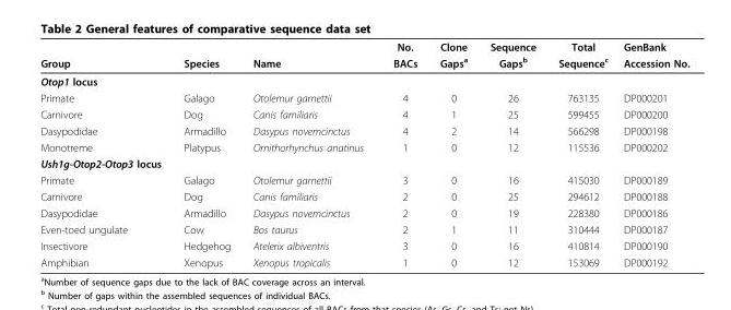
<table><thead><tr><td rowspan="2">Group</td><td rowspan="2">Species</td><td rowspan="2">Name</td><td rowspan="2">No. BACs</td><td rowspan="2">Clone Gaps<sup>a</sup></td><td rowspan="2">Sequence Gaps<sup>b</sup></td><td rowspan="2">Total Sequence<sup>c</sup></td><td rowspan="2">GenBank Accession No.</td></tr><tr></tr></thead><tbody><tr><td colspan="8">Otop1 locus</td></tr><tr><td>Primate</td><td>Galago</td><td>Otolemur garnettii</td><td>4</td><td>0</td><td>26</td><td>763135</td><td>DP000201</td></tr><tr><td>Carnivore</td><td>Dog</td><td>Canis familiaris</td><td>4</td><td>1</td><td>25</td><td>599455</td><td>DP000200</td></tr><tr><td>Dasypodidae</td><td>Armadillo</td><td>Dasypus novemcinctus</td><td>4</td><td>2</td><td>14</td><td>566298</td><td>DP000198</td></tr><tr><td>Monotreme</td><td>Platypus</td><td>Ornithorhynchus anatinus</td><td>1</td><td>0</td><td>12</td><td>115536</td><td>DP000202</td></tr><tr><td colspan="8">Ush1g-Otop2-Otop3 locus</td></tr><tr><td>Primate</td><td>Galago</td><td>Otolemur garnettii</td><td>3</td><td>0</td><td>16</td><td>415030</td><td>DP000189</td></tr><tr><td>Carnivore</td><td>Dog</td><td>Canis familiaris</td><td>2</td><td>0</td><td>25</td><td>294612</td><td>DP000188</td></tr><tr><td>Dasypodidae</td><td>Armadillo</td><td>Dasypus novemcinctus</td><td>2</td><td>0</td><td>19</td><td>228380</td><td>DP000186</td></tr><tr><td>Even-toed ungulate</td><td>Cow</td><td>Bos taurus</td><td>2</td><td>1</td><td>11</td><td>310444</td><td>DP000187</td></tr><tr><td>Insectivore</td><td>Hedgehog</td><td>Atelerix albiventris</td><td>3</td><td>0</td><td>16</td><td>410814</td><td>DP000190</td></tr><tr><td>Amphibian</td><td>Xenopus</td><td>Xenopus tropicalis</td><td>1</td><td>0</td><td>12</td><td>153069</td><td>DP000192</td></tr></tbody></table>